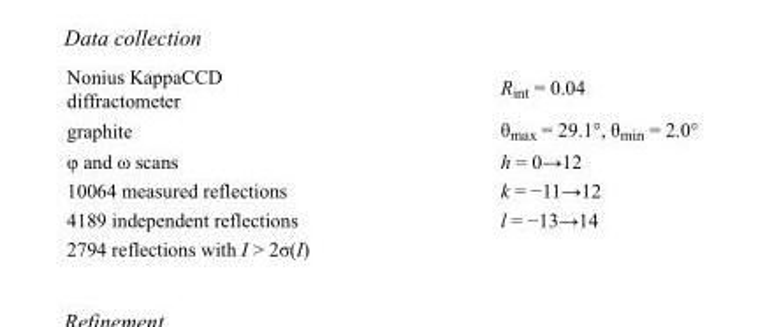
<table><tbody><tr><td>Nonius KappaCCD diffractometer</td><td>R<sub>int</sub> = 0.04</td></tr><tr><td>graphite</td><td>θ<sub>max</sub> = 29.1°, θ<sub>min</sub> = 2.0°</td></tr><tr><td>φ and ω scans</td><td>h = 0→12</td></tr><tr><td>10064 measured reflections</td><td>k = −11→12</td></tr><tr><td>4189 independent reflections</td><td>l = −13→14</td></tr><tr><td>2794 reflections with I &gt; 2σ(I)</td><td></td></tr></tbody></table>